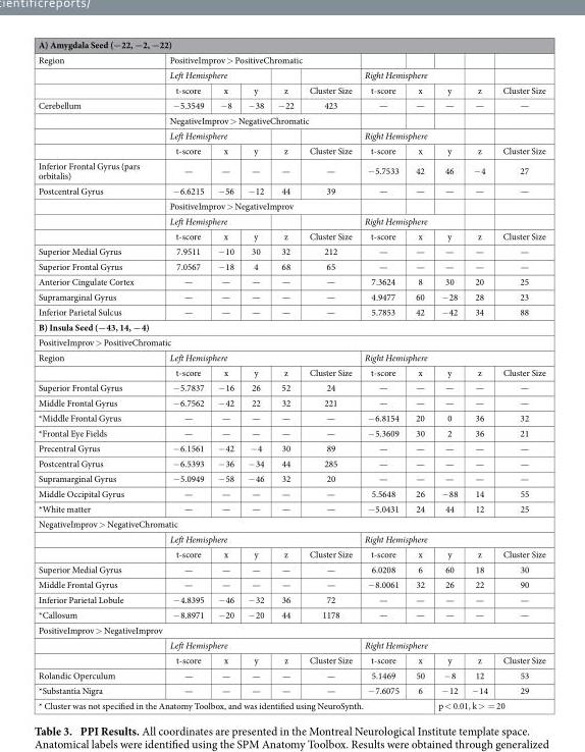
<table><tbody><tr><td colspan="11">A) Amygdala Seed (−22, −2, −22)</td></tr><tr><td rowspan="3">Region</td><td colspan="5">PositiveImprov &gt; PositiveChromatic</td><td></td><td></td><td></td><td></td><td></td></tr><tr><td colspan="3">Left Hemisphere</td><td></td><td></td><td colspan="3">Right Hemisphere</td><td></td><td></td></tr><tr><td>t-score</td><td>x</td><td>y</td><td>z</td><td>Cluster Size</td><td>t-score</td><td>x</td><td>y</td><td>z</td><td>Cluster Size</td></tr><tr><td rowspan="4">Cerebellum</td><td>− 5.3549</td><td>− 8</td><td>− 38</td><td>− 22</td><td>423</td><td>—</td><td>—</td><td>—</td><td>—</td><td>—</td></tr><tr><td colspan="5">NegativeImprov &gt; NegativeChromatic</td><td></td><td></td><td></td><td></td><td></td></tr><tr><td colspan="3">Left Hemisphere</td><td></td><td></td><td colspan="3">Right Hemisphere</td><td></td><td></td></tr><tr><td>t-score</td><td>x</td><td>y</td><td>z</td><td>Cluster Size</td><td>t-score</td><td>x</td><td>y</td><td>z</td><td>Cluster Size</td></tr><tr><td>Inferior Frontal Gyrus (pars orbitalis)</td><td>—</td><td>—</td><td>—</td><td>—</td><td>—</td><td>− 5.7533</td><td>42</td><td>46</td><td>− 4</td><td>27</td></tr><tr><td rowspan="4">Postcentral Gyrus</td><td>− 6.6215</td><td>− 56</td><td>− 12</td><td>44</td><td>39</td><td>—</td><td>—</td><td>—</td><td>—</td><td>—</td></tr><tr><td colspan="5">PositiveImprov &gt; NegativeImprov</td><td></td><td></td><td></td><td></td><td></td></tr><tr><td colspan="3">Left Hemisphere</td><td></td><td></td><td colspan="3">Right Hemisphere</td><td></td><td></td></tr><tr><td>t-score</td><td>x</td><td>y</td><td>z</td><td>Cluster Size</td><td>t-score</td><td>x</td><td>y</td><td>z</td><td>Cluster Size</td></tr><tr><td>Superior Medial Gyrus</td><td>7.9511</td><td>− 10</td><td>30</td><td>32</td><td>212</td><td>—</td><td>—</td><td>—</td><td>—</td><td>—</td></tr><tr><td>Superior Frontal Gyrus</td><td>7.0567</td><td>− 18</td><td>4</td><td>68</td><td>65</td><td>—</td><td>—</td><td>—</td><td>—</td><td>—</td></tr><tr><td>Anterior Cingulate Cortex</td><td>—</td><td>—</td><td>—</td><td>—</td><td>—</td><td>7.3624</td><td>8</td><td>30</td><td>20</td><td>25</td></tr><tr><td>Supramarginal Gyrus</td><td>—</td><td>—</td><td>—</td><td>—</td><td>—</td><td>4.9477</td><td>60</td><td>− 28</td><td>28</td><td>23</td></tr><tr><td>Inferior Parietal Sulcus</td><td>—</td><td>—</td><td>—</td><td>—</td><td>—</td><td>5.7853</td><td>42</td><td>− 42</td><td>34</td><td>88</td></tr><tr><td colspan="11">B) Insula Seed (− 43, 14, − 4)</td></tr><tr><td colspan="11">PositiveImprov &gt; PositiveChromatic</td></tr><tr><td rowspan="2">Region</td><td colspan="5">Left Hemisphere</td><td colspan="5">Right Hemisphere</td></tr><tr><td>t-score</td><td>x</td><td>y</td><td>z</td><td>Cluster Size</td><td>t-score</td><td>x</td><td>y</td><td>z</td><td>Cluster Size</td></tr><tr><td>Superior Frontal Gyrus</td><td>− 5.7837</td><td>− 16</td><td>26</td><td>52</td><td>24</td><td>—</td><td>—</td><td>—</td><td>—</td><td>—</td></tr><tr><td>Middle Frontal Gyrus</td><td>− 6.7562</td><td>− 42</td><td>22</td><td>32</td><td>221</td><td>—</td><td>—</td><td>—</td><td>—</td><td>—</td></tr><tr><td>*Middle Frontal Gyrus</td><td>—</td><td>—</td><td>—</td><td>—</td><td>—</td><td>− 6.8154</td><td>20</td><td>0</td><td>36</td><td>32</td></tr><tr><td>*Frontal Eye Fields</td><td>—</td><td>—</td><td>—</td><td>—</td><td>—</td><td>− 5.3609</td><td>30</td><td>2</td><td>36</td><td>21</td></tr><tr><td>Precentral Gyrus</td><td>− 6.1561</td><td>− 42</td><td>− 4</td><td>30</td><td>89</td><td>—</td><td>—</td><td>—</td><td>—</td><td>—</td></tr><tr><td>Postcentral Gyrus</td><td>− 6.5393</td><td>− 36</td><td>− 34</td><td>44</td><td>285</td><td>—</td><td>—</td><td>—</td><td>—</td><td>—</td></tr><tr><td>Supramarginal Gyrus</td><td>− 5.0949</td><td>− 58</td><td>− 46</td><td>32</td><td>20</td><td>—</td><td>—</td><td>—</td><td>—</td><td>—</td></tr><tr><td>Middle Occipital Gyrus</td><td>—</td><td>—</td><td>—</td><td>—</td><td>—</td><td>5.5648</td><td>26</td><td>− 88</td><td>14</td><td>55</td></tr><tr><td>*White matter</td><td>—</td><td>—</td><td>—</td><td>—</td><td>—</td><td>− 5.0431</td><td>24</td><td>44</td><td>12</td><td>25</td></tr><tr><td colspan="11">NegativeImprov &gt; NegativeChromatic</td></tr><tr><td></td><td colspan="5">Left Hemisphere</td><td colspan="5">Right Hemisphere</td></tr><tr><td></td><td>t-score</td><td>x</td><td>y</td><td>z</td><td>Cluster Size</td><td>t-score</td><td>x</td><td>y</td><td>z</td><td>Cluster Size</td></tr><tr><td>Superior Medial Gyrus</td><td>—</td><td>—</td><td>—</td><td>—</td><td>—</td><td>6.0208</td><td>6</td><td>60</td><td>18</td><td>30</td></tr><tr><td>Middle Frontal Gyrus</td><td>—</td><td>—</td><td>—</td><td>—</td><td>—</td><td>− 8.0061</td><td>32</td><td>26</td><td>22</td><td>90</td></tr><tr><td>Inferior Parietal Lobule</td><td>− 4.8395</td><td>− 46</td><td>− 32</td><td>36</td><td>72</td><td>—</td><td>—</td><td>—</td><td>—</td><td>—</td></tr><tr><td>*Callosum</td><td>− 8.8971</td><td>− 20</td><td>− 20</td><td>44</td><td>1178</td><td>—</td><td>—</td><td>—</td><td>—</td><td>—</td></tr><tr><td colspan="11">PositiveImprov &gt; NegativeImprov</td></tr><tr><td></td><td colspan="5">Left Hemisphere</td><td colspan="5">Right Hemisphere</td></tr><tr><td></td><td>t-score</td><td>x</td><td>y</td><td>z</td><td>Cluster Size</td><td>t-score</td><td>x</td><td>y</td><td>z</td><td>Cluster Size</td></tr><tr><td>Rolandic Operculum</td><td>—</td><td>—</td><td>—</td><td>—</td><td>—</td><td>5.1469</td><td>50</td><td>− 8</td><td>12</td><td>53</td></tr><tr><td>*Substantia Nigra</td><td>—</td><td>—</td><td>—</td><td>—</td><td>—</td><td>− 7.6075</td><td>6</td><td>− 12</td><td>− 14</td><td>29</td></tr><tr><td colspan="8">* Cluster was not specified in the Anatomy Toolbox, and was identified using NeuroSynth.</td><td colspan="3">p &lt; 0.01, k &gt; = 20</td></tr></tbody></table>